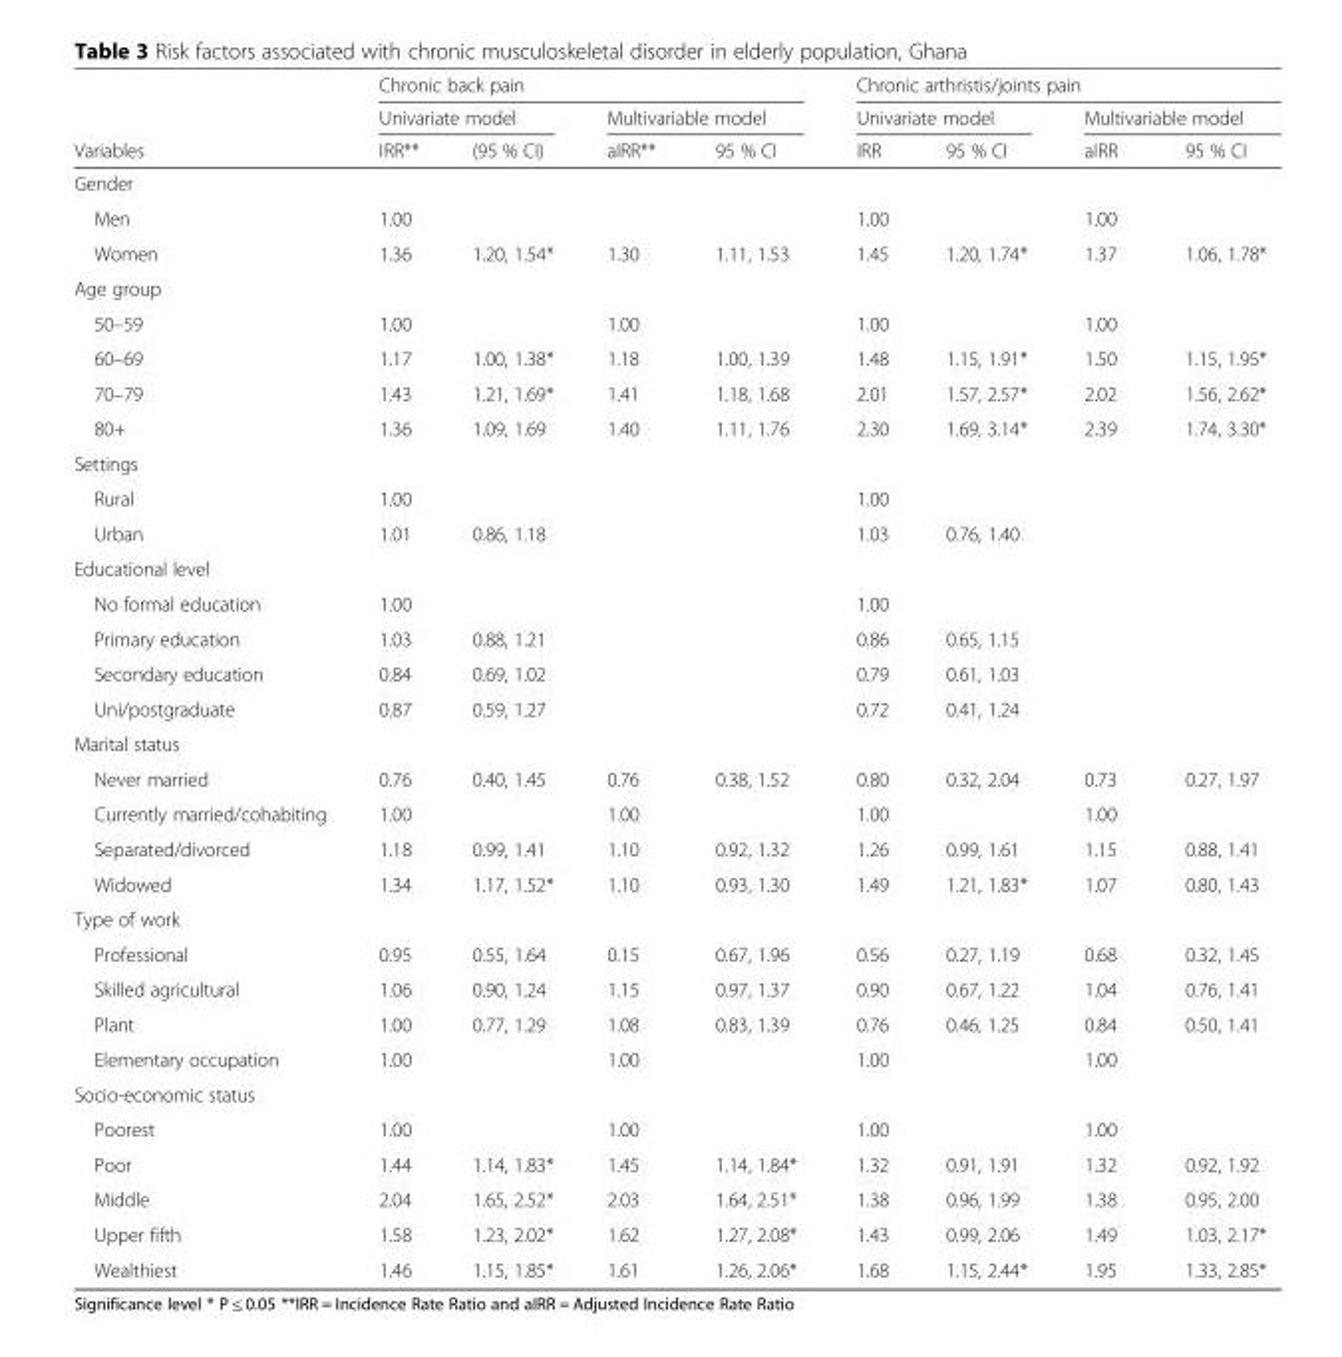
<table><thead><tr><td rowspan="3">Variables</td><td colspan="4">Chronic back pain</td><td colspan="4">Chronic arthristis/joints pain</td></tr><tr><td colspan="2">Univariate model</td><td colspan="2">Multivariable model</td><td colspan="2">Univariate model</td><td colspan="2">Multivariable model</td></tr><tr><td>IRR**</td><td>(95 % CI)</td><td>aIRR**</td><td>95 % CI</td><td>IRR</td><td>95 % CI</td><td>aIRR</td><td>95 % CI</td></tr></thead><tbody><tr><td colspan="9">Gender</td></tr><tr><td>Men</td><td>1.00</td><td></td><td></td><td></td><td>1.00</td><td></td><td>1.00</td><td></td></tr><tr><td>Women</td><td>1.36</td><td>1.20, 1.54*</td><td>1.30</td><td>1.11, 1.53</td><td>1.45</td><td>1.20, 1.74*</td><td>1.37</td><td>1.06, 1.78*</td></tr><tr><td colspan="9">Age group</td></tr><tr><td>50–59</td><td>1.00</td><td></td><td>1.00</td><td></td><td>1.00</td><td></td><td>1.00</td><td></td></tr><tr><td>60–69</td><td>1.17</td><td>1.00, 1.38*</td><td>1.18</td><td>1.00, 1.39</td><td>1.48</td><td>1.15, 1.91*</td><td>1.50</td><td>1.15, 1.95*</td></tr><tr><td>70–79</td><td>1.43</td><td>1.21, 1.69*</td><td>1.41</td><td>1.18, 1.68</td><td>2.01</td><td>1.57, 2.57*</td><td>2.02</td><td>1.56, 2.62*</td></tr><tr><td>80+</td><td>1.36</td><td>1.09, 1.69</td><td>1.40</td><td>1.11, 1.76</td><td>2.30</td><td>1.69, 3.14*</td><td>2.39</td><td>1.74, 3.30*</td></tr><tr><td colspan="9">Settings</td></tr><tr><td>Rural</td><td>1.00</td><td></td><td></td><td></td><td>1.00</td><td></td><td></td><td></td></tr><tr><td>Urban</td><td>1.01</td><td>0.86, 1.18</td><td></td><td></td><td>1.03</td><td>0.76, 1.40</td><td></td><td></td></tr><tr><td colspan="9">Educational level</td></tr><tr><td>No formal education</td><td>1.00</td><td></td><td></td><td></td><td>1.00</td><td></td><td></td><td></td></tr><tr><td>Primary education</td><td>1.03</td><td>0.88, 1.21</td><td></td><td></td><td>0.86</td><td>0.65, 1.15</td><td></td><td></td></tr><tr><td>Secondary education</td><td>0.84</td><td>0.69, 1.02</td><td></td><td></td><td>0.79</td><td>0.61, 1.03</td><td></td><td></td></tr><tr><td>Uni/postgraduate</td><td>0.87</td><td>0.59, 1.27</td><td></td><td></td><td>0.72</td><td>0.41, 1.24</td><td></td><td></td></tr><tr><td colspan="9">Marital status</td></tr><tr><td>Never married</td><td>0.76</td><td>0.40, 1.45</td><td>0.76</td><td>0.38, 1.52</td><td>0.80</td><td>0.32, 2.04</td><td>0.73</td><td>0.27, 1.97</td></tr><tr><td>Currently married/cohabiting</td><td>1.00</td><td></td><td>1.00</td><td></td><td>1.00</td><td></td><td>1.00</td><td></td></tr><tr><td>Separated/divorced</td><td>1.18</td><td>0.99, 1.41</td><td>1.10</td><td>0.92, 1.32</td><td>1.26</td><td>0.99, 1.61</td><td>1.15</td><td>0.88, 1.41</td></tr><tr><td>Widowed</td><td>1.34</td><td>1.17, 1.52*</td><td>1.10</td><td>0.93, 1.30</td><td>1.49</td><td>1.21, 1.83*</td><td>1.07</td><td>0.80, 1.43</td></tr><tr><td colspan="9">Type of work</td></tr><tr><td>Professional</td><td>0.95</td><td>0.55, 1.64</td><td>0.15</td><td>0.67, 1.96</td><td>0.56</td><td>0.27, 1.19</td><td>0.68</td><td>0.32, 1.45</td></tr><tr><td>Skilled agricultural</td><td>1.06</td><td>0.90, 1.24</td><td>1.15</td><td>0.97, 1.37</td><td>0.90</td><td>0.67, 1.22</td><td>1.04</td><td>0.76, 1.41</td></tr><tr><td>Plant</td><td>1.00</td><td>0.77, 1.29</td><td>1.08</td><td>0.83, 1.39</td><td>0.76</td><td>0.46, 1.25</td><td>0.84</td><td>0.50, 1.41</td></tr><tr><td>Elementary occupation</td><td>1.00</td><td></td><td>1.00</td><td></td><td>1.00</td><td></td><td>1.00</td><td></td></tr><tr><td colspan="9">Socio-economic status</td></tr><tr><td>Poorest</td><td>1.00</td><td></td><td>1.00</td><td></td><td>1.00</td><td></td><td>1.00</td><td></td></tr><tr><td>Poor</td><td>1.44</td><td>1.14, 1.83*</td><td>1.45</td><td>1.14, 1.84*</td><td>1.32</td><td>0.91, 1.91</td><td>1.32</td><td>0.92, 1.92</td></tr><tr><td>Middle</td><td>2.04</td><td>1.65, 2.52*</td><td>2.03</td><td>1.64, 2.51*</td><td>1.38</td><td>0.96, 1.99</td><td>1.38</td><td>0.95, 2.00</td></tr><tr><td>Upper fifth</td><td>1.58</td><td>1.23, 2.02*</td><td>1.62</td><td>1.27, 2.08*</td><td>1.43</td><td>0.99, 2.06</td><td>1.49</td><td>1.03, 2.17*</td></tr><tr><td>Wealthiest</td><td>1.46</td><td>1.15, 1.85*</td><td>1.61</td><td>1.26, 2.06*</td><td>1.68</td><td>1.15, 2.44*</td><td>1.95</td><td>1.33, 2.85*</td></tr></tbody></table>